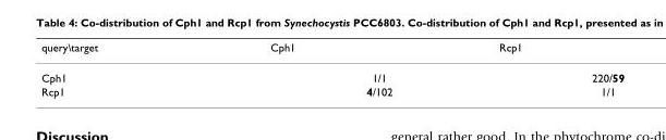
<table><thead><tr><td>query\target</td><td>Cph1</td><td>Rcp1</td></tr></thead><tbody><tr><td>Cph1</td><td>1/1</td><td>220/59</td></tr><tr><td>Rcp1</td><td>4/102</td><td>1/1</td></tr></tbody></table>